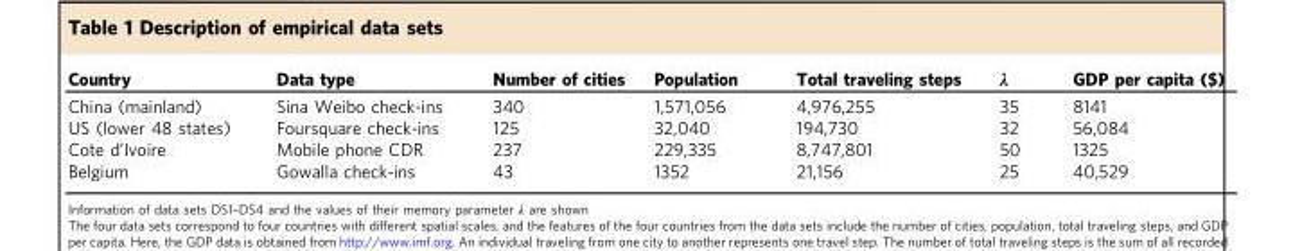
<table><thead><tr><td>Country</td><td>Data type</td><td>Number of cities</td><td>Population</td><td>Total traveling steps</td><td>λ</td><td>GDP per capita ($)</td></tr></thead><tbody><tr><td>China (mainland)</td><td>Sina Weibo check-ins</td><td>340</td><td>1,571,056</td><td>4,976,255</td><td>35</td><td>8141</td></tr><tr><td>US (lower 48 states)</td><td>Foursquare check-ins</td><td>125</td><td>32,040</td><td>194,730</td><td>32</td><td>56,084</td></tr><tr><td>Cote d’Ivoire</td><td>Mobile phone CDR</td><td>237</td><td>229,335</td><td>8,747,801</td><td>50</td><td>1325</td></tr><tr><td>Belgium</td><td>Gowalla check-ins</td><td>43</td><td>1352</td><td>21,156</td><td>25</td><td>40,529</td></tr></tbody></table>